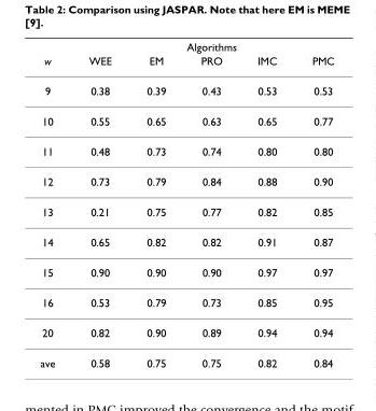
<table><thead><tr><td rowspan="2">w</td><td colspan="5">Algorithms</td></tr><tr><td>WEE</td><td>EM</td><td>PRO</td><td>IMC</td><td>PMC</td></tr></thead><tbody><tr><td>9</td><td>0.38</td><td>0.39</td><td>0.43</td><td>0.53</td><td>0.53</td></tr><tr><td>10</td><td>0.55</td><td>0.65</td><td>0.63</td><td>0.65</td><td>0.77</td></tr><tr><td>11</td><td>0.48</td><td>0.73</td><td>0.74</td><td>0.80</td><td>0.80</td></tr><tr><td>12</td><td>0.73</td><td>0.79</td><td>0.84</td><td>0.88</td><td>0.90</td></tr><tr><td>13</td><td>0.21</td><td>0.75</td><td>0.77</td><td>0.82</td><td>0.85</td></tr><tr><td>14</td><td>0.65</td><td>0.82</td><td>0.82</td><td>0.91</td><td>0.87</td></tr><tr><td>15</td><td>0.90</td><td>0.90</td><td>0.90</td><td>0.97</td><td>0.97</td></tr><tr><td>16</td><td>0.53</td><td>0.79</td><td>0.73</td><td>0.85</td><td>0.95</td></tr><tr><td>20</td><td>0.82</td><td>0.90</td><td>0.89</td><td>0.94</td><td>0.94</td></tr><tr><td>ave</td><td>0.58</td><td>0.75</td><td>0.75</td><td>0.82</td><td>0.84</td></tr></tbody></table>